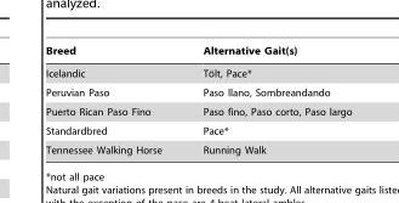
<table><thead><tr><td>Breed</td><td>Alternative Gait(s)</td></tr></thead><tbody><tr><td>Icelandic</td><td>To¨lt, Pace*</td></tr><tr><td>Peruvian Paso</td><td>Paso llano, Sombreandando</td></tr><tr><td>Puerto Rican Paso Fino</td><td>Paso fino, Paso corto, Paso largo</td></tr><tr><td>Standardbred</td><td>Pace*</td></tr><tr><td>Tennessee Walking Horse</td><td>Running Walk</td></tr></tbody></table>